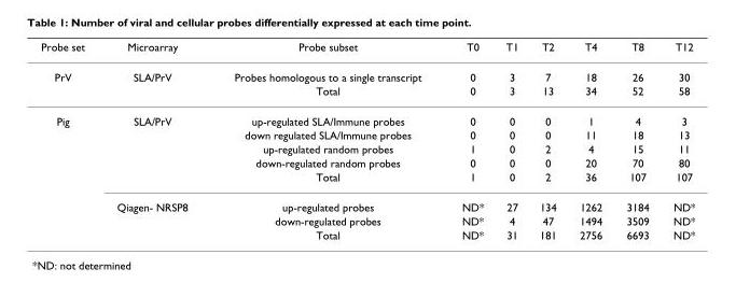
<table><thead><tr><td>Probe set</td><td>Microarray</td><td>Probe subset</td><td>T0</td><td>T1</td><td>T2</td><td>T4</td><td>T8</td><td>T12</td></tr></thead><tbody><tr><td rowspan="2">PrV</td><td>SLA/PrV</td><td>Probes homologous to a single transcript</td><td>0</td><td>3</td><td>7</td><td>18</td><td>26</td><td>30</td></tr><tr><td></td><td>Total</td><td>0</td><td>3</td><td>13</td><td>34</td><td>52</td><td>58</td></tr><tr><td rowspan="8">Pig</td><td>SLA/PrV</td><td>up-regulated SLA/Immune probes</td><td>0</td><td>0</td><td>0</td><td>1</td><td>4</td><td>3</td></tr><tr><td></td><td>down regulated SLA/Immune probes</td><td>0</td><td>0</td><td>0</td><td>11</td><td>18</td><td>13</td></tr><tr><td></td><td>up-regulated random probes</td><td>1</td><td>0</td><td>2</td><td>4</td><td>15</td><td>11</td></tr><tr><td></td><td>down-regulated random probes</td><td>0</td><td>0</td><td>0</td><td>20</td><td>70</td><td>80</td></tr><tr><td></td><td>Total</td><td>1</td><td>0</td><td>2</td><td>36</td><td>107</td><td>107</td></tr><tr><td>Qiagen- NRSP8</td><td>up-regulated probes</td><td>ND*</td><td>27</td><td>134</td><td>1262</td><td>3184</td><td>ND*</td></tr><tr><td></td><td>down-regulated probes</td><td>ND*</td><td>4</td><td>47</td><td>1494</td><td>3509</td><td>ND*</td></tr><tr><td></td><td>Total</td><td>ND*</td><td>31</td><td>181</td><td>2756</td><td>6693</td><td>ND*</td></tr></tbody></table>